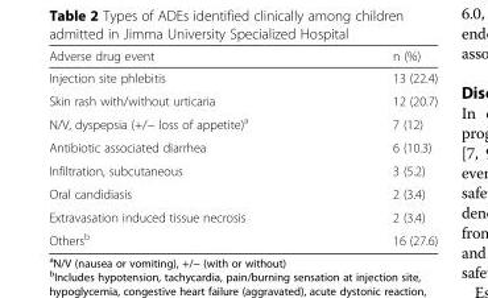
<table><thead><tr><td>Adverse drug event</td><td>n (%)</td></tr></thead><tbody><tr><td>Injection site phlebitis</td><td>13 (22.4)</td></tr><tr><td>Skin rash with/without urticaria</td><td>12 (20.7)</td></tr><tr><td>N/V, dyspepsia (+/− loss of appetite)<sup>a</sup></td><td>7 (12)</td></tr><tr><td>Antibiotic associated diarrhea</td><td>6 (10.3)</td></tr><tr><td>Infiltration, subcutaneous</td><td>3 (5.2)</td></tr><tr><td>Oral candidiasis</td><td>2 (3.4)</td></tr><tr><td>Extravasation induced tissue necrosis</td><td>2 (3.4)</td></tr><tr><td>Others<sup>b</sup></td><td>16 (27.6)</td></tr></tbody></table>